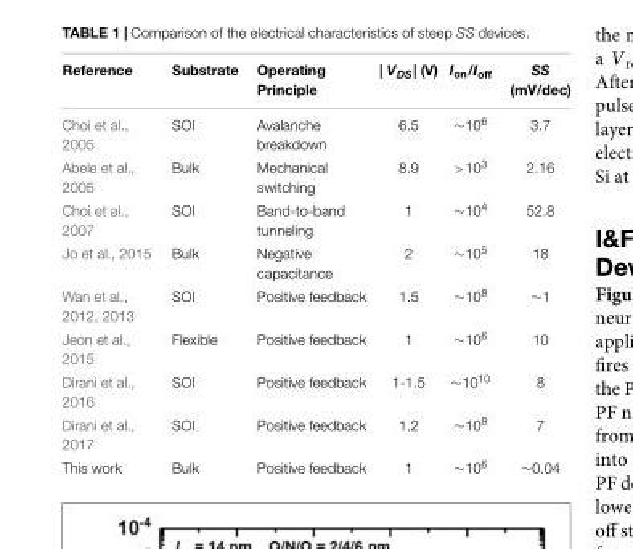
<table><thead><tr><td>Reference</td><td>Substrate</td><td>Operating Principle</td><td>| V<sub>DS</sub>| (V)</td><td>I<sub>on</sub>/I<sub>off</sub></td><td>SS (mV/dec)</td></tr></thead><tbody><tr><td>Choi et al., 2005</td><td>SOI</td><td>Avalanche breakdown</td><td>6.5</td><td>∼10<sup>6</sup></td><td>3.7</td></tr><tr><td>Abele et al., 2005</td><td>Bulk</td><td>Mechanical switching</td><td>8.9</td><td>&gt;10<sup>3</sup></td><td>2.16</td></tr><tr><td>Choi et al., 2007</td><td>SOI</td><td>Band-to-band tunneling</td><td>1</td><td>∼10<sup>4</sup></td><td>52.8</td></tr><tr><td>Jo et al., 2015</td><td>Bulk</td><td>Negative capacitance</td><td>2</td><td>∼10<sup>5</sup></td><td>18</td></tr><tr><td>Wan et al., 2012, 2013</td><td>SOI</td><td>Positive feedback</td><td>1.5</td><td>∼10<sup>8</sup></td><td>∼1</td></tr><tr><td>Jeon et al., 2015</td><td>Flexible</td><td>Positive feedback</td><td>1</td><td>∼10<sup>6</sup></td><td>10</td></tr><tr><td>Dirani et al., 2016</td><td>SOI</td><td>Positive feedback</td><td>1-1.5</td><td>∼10<sup>10</sup></td><td>8</td></tr><tr><td>Dirani et al., 2017</td><td>SOI</td><td>Positive feedback</td><td>1.2</td><td>∼10<sup>8</sup></td><td>7</td></tr><tr><td>This work</td><td>Bulk</td><td>Positive feedback</td><td>1</td><td>∼10<sup>6</sup></td><td>∼0.04</td></tr></tbody></table>